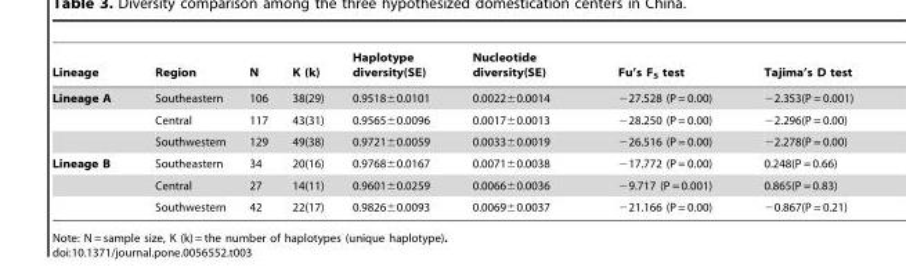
<table><thead><tr><td>Lineage</td><td>Region</td><td>N</td><td>K (k)</td><td>Haplotype diversity(SE)</td><td>Nucleotide diversity(SE)</td><td>Fu’s F<sub>S</sub> test</td><td>Tajima’s D test</td></tr></thead><tbody><tr><td rowspan="3">Lineage A</td><td>Southeastern</td><td>106</td><td>38(29)</td><td>0.9518±0.0101</td><td>0.0022±0.0014</td><td>−27.528 (P = 0.00)</td><td>−2.353(P = 0.001)</td></tr><tr><td>Central</td><td>117</td><td>43(31)</td><td>0.9565±0.0096</td><td>0.0017±0.0013</td><td>−28.250 (P = 0.00)</td><td>−2.296(P = 0.00)</td></tr><tr><td>Southwestern</td><td>129</td><td>49(38)</td><td>0.9721±0.0059</td><td>0.0033±0.0019</td><td>−26.516 (P = 0.00)</td><td>−2.278(P = 0.00)</td></tr><tr><td rowspan="3">Lineage B</td><td>Southeastern</td><td>34</td><td>20(16)</td><td>0.9768±0.0167</td><td>0.0071±0.0038</td><td>−17.772 (P = 0.00)</td><td>0.248(P = 0.66)</td></tr><tr><td>Central</td><td>27</td><td>14(11)</td><td>0.9601±0.0259</td><td>0.0066±0.0036</td><td>−9.717 (P = 0.001)</td><td>0.865(P = 0.83)</td></tr><tr><td>Southwestern</td><td>42</td><td>22(17)</td><td>0.9826±0.0093</td><td>0.0069±0.0037</td><td>−21.166 (P = 0.00)</td><td>−0.867(P = 0.21)</td></tr></tbody></table>